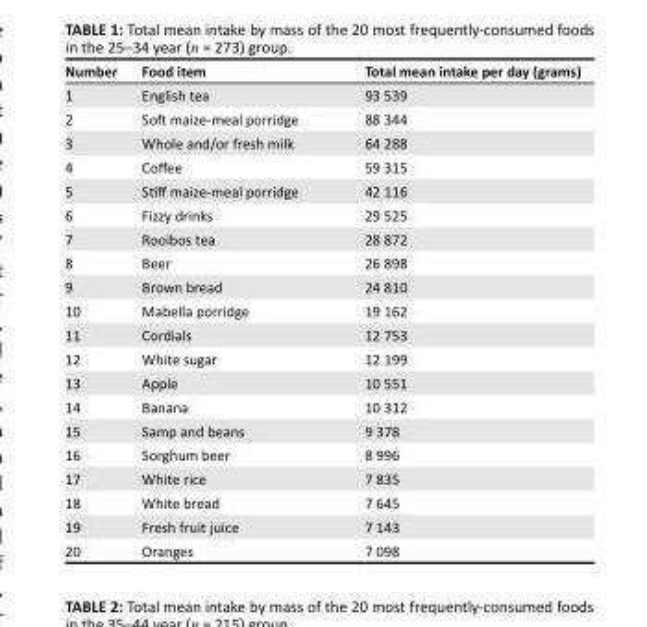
<table><thead><tr><td>Number</td><td>Food item</td><td>Total mean intake per day (grams)</td></tr></thead><tbody><tr><td>1</td><td>English tea</td><td>93 539</td></tr><tr><td>2</td><td>Soft maize-meal porridge</td><td>88 344</td></tr><tr><td>3</td><td>Whole and/or fresh milk</td><td>64 288</td></tr><tr><td>4</td><td>Coffee</td><td>59 315</td></tr><tr><td>5</td><td>Stiff maize-meal porridge</td><td>42 116</td></tr><tr><td>6</td><td>Fizzy drinks</td><td>29 525</td></tr><tr><td>7</td><td>Rooibos tea</td><td>28 872</td></tr><tr><td>8</td><td>Beer</td><td>26 898</td></tr><tr><td>9</td><td>Brown bread</td><td>24 810</td></tr><tr><td>10</td><td>Mabella porridge</td><td>19 162</td></tr><tr><td>11</td><td>Cordials</td><td>12 753</td></tr><tr><td>12</td><td>White sugar</td><td>12 199</td></tr><tr><td>13</td><td>Apple</td><td>10 551</td></tr><tr><td>14</td><td>Banana</td><td>10 312</td></tr><tr><td>15</td><td>Samp and beans</td><td>9 378</td></tr><tr><td>16</td><td>Sorghum beer</td><td>8 996</td></tr><tr><td>17</td><td>White rice</td><td>7 835</td></tr><tr><td>18</td><td>White bread</td><td>7 645</td></tr><tr><td>19</td><td>Fresh fruit juice</td><td>7 143</td></tr><tr><td>20</td><td>Oranges</td><td>7 098</td></tr></tbody></table>